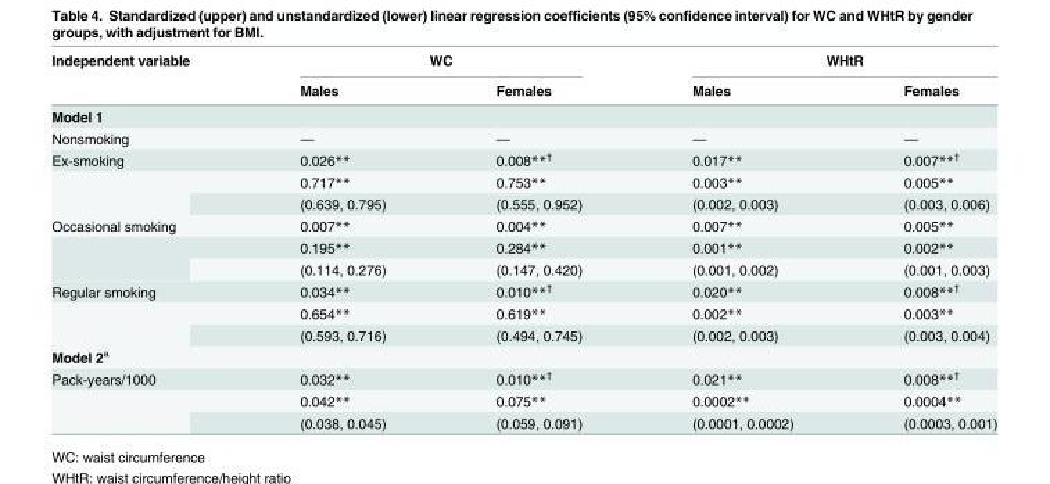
<table><thead><tr><td rowspan="2">Independent variable</td><td colspan="2">WC</td><td colspan="2">WHtR</td></tr><tr><td>Males</td><td>Females</td><td>Males</td><td>Females</td></tr></thead><tbody><tr><td colspan="5">Model 1</td></tr><tr><td>Nonsmoking</td><td>—</td><td>—</td><td>—</td><td>—</td></tr><tr><td rowspan="3">Ex-smoking</td><td>0.026**</td><td>0.008**<sup>†</sup></td><td>0.017**</td><td>0.007**<sup>†</sup></td></tr><tr><td>0.717**</td><td>0.753**</td><td>0.003**</td><td>0.005**</td></tr><tr><td>(0.639, 0.795)</td><td>(0.555, 0.952)</td><td>(0.002, 0.003)</td><td>(0.003, 0.006)</td></tr><tr><td rowspan="3">Occasional smoking</td><td>0.007**</td><td>0.004**</td><td>0.007**</td><td>0.005**</td></tr><tr><td>0.195**</td><td>0.284**</td><td>0.001**</td><td>0.002**</td></tr><tr><td>(0.114, 0.276)</td><td>(0.147, 0.420)</td><td>(0.001, 0.002)</td><td>(0.001, 0.003)</td></tr><tr><td rowspan="3">Regular smoking</td><td>0.034**</td><td>0.010**<sup>†</sup></td><td>0.020**</td><td>0.008**<sup>†</sup></td></tr><tr><td>0.654**</td><td>0.619**</td><td>0.002**</td><td>0.003**</td></tr><tr><td>(0.593, 0.716)</td><td>(0.494, 0.745)</td><td>(0.002, 0.003)</td><td>(0.003, 0.004)</td></tr><tr><td colspan="5">Model 2<sup>a</sup></td></tr><tr><td rowspan="3">Pack-years/1000</td><td>0.032**</td><td>0.010**<sup>†</sup></td><td>0.021**</td><td>0.008**<sup>†</sup></td></tr><tr><td>0.042**</td><td>0.075**</td><td>0.0002**</td><td>0.0004**</td></tr><tr><td>(0.038, 0.045)</td><td>(0.059, 0.091)</td><td>(0.0001, 0.0002)</td><td>(0.0003, 0.001)</td></tr></tbody></table>